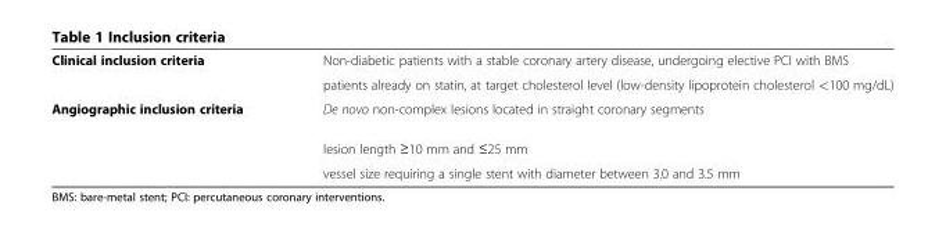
<table><tbody><tr><td rowspan="2">Clinical inclusion criteria</td><td>Non-diabetic patients with a stable coronary artery disease, undergoing elective PCI with BMS</td></tr><tr><td>patients already on statin, at target cholesterol level (low-density lipoprotein cholesterol &lt;100 mg/dL)</td></tr><tr><td rowspan="3">Angiographic inclusion criteria</td><td>De novo non-complex lesions located in straight coronary segments</td></tr><tr><td>lesion length ≥10 mm and ≤25 mm</td></tr><tr><td>vessel size requiring a single stent with diameter between 3.0 and 3.5 mm</td></tr></tbody></table>